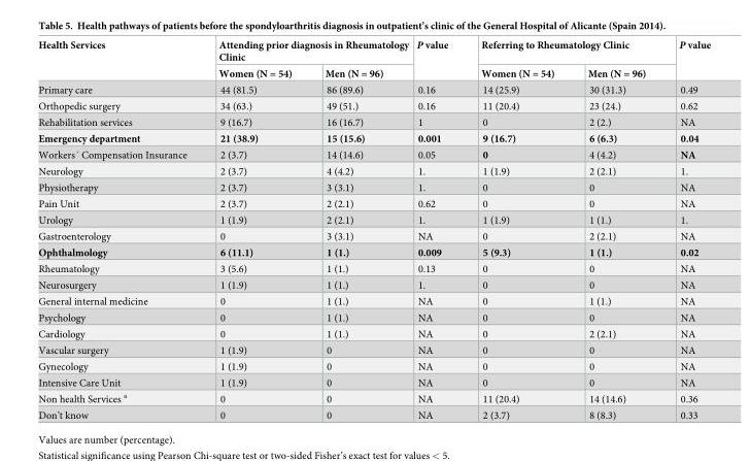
<table><thead><tr><td rowspan="2">Health Services</td><td colspan="2">Attending prior diagnosis in Rheumatology Clinic</td><td rowspan="2">P value</td><td colspan="2">Referring to Rheumatology Clinic</td><td rowspan="2">P value</td></tr><tr><td>Women (N = 54)</td><td>Men (N = 96)</td><td>Women (N = 54)</td><td>Men (N = 96)</td></tr></thead><tbody><tr><td>Primary care</td><td>44 (81.5)</td><td>86 (89.6)</td><td>0.16</td><td>14 (25.9)</td><td>30 (31.3)</td><td>0.49</td></tr><tr><td>Orthopedic surgery</td><td>34 (63.)</td><td>49 (51.)</td><td>0.16</td><td>11 (20.4)</td><td>23 (24.)</td><td>0.62</td></tr><tr><td>Rehabilitation services</td><td>9 (16.7)</td><td>16 (16.7)</td><td>1</td><td>0</td><td>2 (2.)</td><td>NA</td></tr><tr><td>Emergency department</td><td>21 (38.9)</td><td>15 (15.6)</td><td>0.001</td><td>9 (16.7)</td><td>6 (6.3)</td><td>0.04</td></tr><tr><td>Workers´ Compensation Insurance</td><td>2 (3.7)</td><td>14 (14.6)</td><td>0.05</td><td>0</td><td>4 (4.2)</td><td>NA</td></tr><tr><td>Neurology</td><td>2 (3.7)</td><td>4 (4.2)</td><td>1.</td><td>1 (1.9)</td><td>2 (2.1)</td><td>1.</td></tr><tr><td>Physiotherapy</td><td>2 (3.7)</td><td>3 (3.1)</td><td>1.</td><td>0</td><td>0</td><td>NA</td></tr><tr><td>Pain Unit</td><td>2 (3.7)</td><td>2 (2.1)</td><td>0.62</td><td>0</td><td>0</td><td>NA</td></tr><tr><td>Urology</td><td>1 (1.9)</td><td>2 (2.1)</td><td>1.</td><td>1 (1.9)</td><td>1 (1.)</td><td>1.</td></tr><tr><td>Gastroenterology</td><td>0</td><td>3 (3.1)</td><td>NA</td><td>0</td><td>2 (2.1)</td><td>NA</td></tr><tr><td>Ophthalmology</td><td>6 (11.1)</td><td>1 (1.)</td><td>0.009</td><td>5 (9.3)</td><td>1 (1.)</td><td>0.02</td></tr><tr><td>Rheumatology</td><td>3 (5.6)</td><td>1 (1.)</td><td>0.13</td><td>0</td><td>0</td><td>NA</td></tr><tr><td>Neurosurgery</td><td>1 (1.9)</td><td>1 (1.)</td><td>1.</td><td>0</td><td>0</td><td>NA</td></tr><tr><td>General internal medicine</td><td>0</td><td>1 (1.)</td><td>NA</td><td>0</td><td>1 (1.)</td><td>NA</td></tr><tr><td>Psychology</td><td>0</td><td>1 (1.)</td><td>NA</td><td>0</td><td>0</td><td>NA</td></tr><tr><td>Cardiology</td><td>0</td><td>1 (1.)</td><td>NA</td><td>0</td><td>2 (2.1)</td><td>NA</td></tr><tr><td>Vascular surgery</td><td>1 (1.9)</td><td>0</td><td>NA</td><td>0</td><td>0</td><td>NA</td></tr><tr><td>Gynecology</td><td>1 (1.9)</td><td>0</td><td>NA</td><td>0</td><td>0</td><td>NA</td></tr><tr><td>Intensive Care Unit</td><td>1 (1.9)</td><td>0</td><td>NA</td><td>0</td><td>0</td><td>NA</td></tr><tr><td>Non health Services <sup>a</sup></td><td>0</td><td>0</td><td>NA</td><td>11 (20.4)</td><td>14 (14.6)</td><td>0.36</td></tr><tr><td>Don’t know</td><td>0</td><td>0</td><td>NA</td><td>2 (3.7)</td><td>8 (8.3)</td><td>0.33</td></tr></tbody></table>